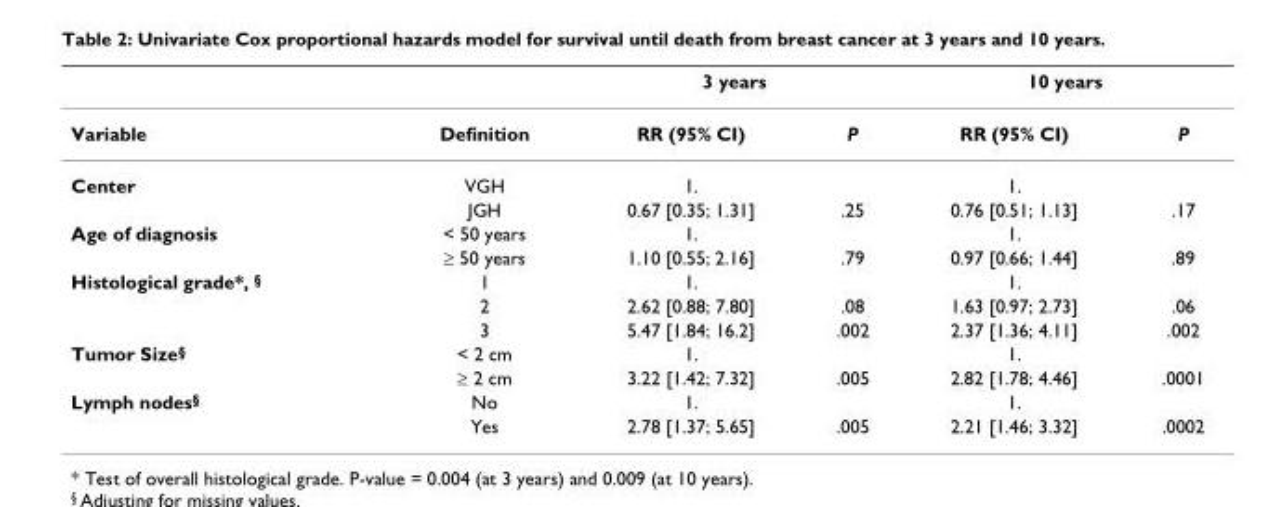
<table><thead><tr><td rowspan="2">Variable</td><td rowspan="2">Definition</td><td colspan="2">3 years</td><td colspan="2">10 years</td></tr><tr><td>RR (95% CI)</td><td>P</td><td>RR (95% CI)</td><td>P</td></tr></thead><tbody><tr><td rowspan="2">Center</td><td>VGH</td><td>1.</td><td></td><td>1.</td><td></td></tr><tr><td>JGH</td><td>0.67 [0.35; 1.31]</td><td>.25</td><td>0.76 [0.51; 1.13]</td><td>.17</td></tr><tr><td rowspan="2">Age of diagnosis</td><td>&lt; 50 years</td><td>1.</td><td></td><td>1.</td><td></td></tr><tr><td>≥ 50 years</td><td>1.10 [0.55; 2.16]</td><td>.79</td><td>0.97 [0.66; 1.44]</td><td>.89</td></tr><tr><td rowspan="3">Histological grade*, <sup>§</sup></td><td>1</td><td>1.</td><td></td><td>1.</td><td></td></tr><tr><td>2</td><td>2.62 [0.88; 7.80]</td><td>.08</td><td>1.63 [0.97; 2.73]</td><td>.06</td></tr><tr><td>3</td><td>5.47 [1.84; 16.2]</td><td>.002</td><td>2.37 [1.36; 4.11]</td><td>.002</td></tr><tr><td rowspan="2">Tumor Size<sup>§</sup></td><td>&lt; 2 cm</td><td>1.</td><td></td><td>1.</td><td></td></tr><tr><td>≥ 2 cm</td><td>3.22 [1.42; 7.32]</td><td>.005</td><td>2.82 [1.78; 4.46]</td><td>.0001</td></tr><tr><td rowspan="2">Lymph nodes<sup>§</sup></td><td>No</td><td>1.</td><td></td><td>1.</td><td></td></tr><tr><td>Yes</td><td>2.78 [1.37; 5.65]</td><td>.005</td><td>2.21 [1.46; 3.32]</td><td>.0002</td></tr></tbody></table>